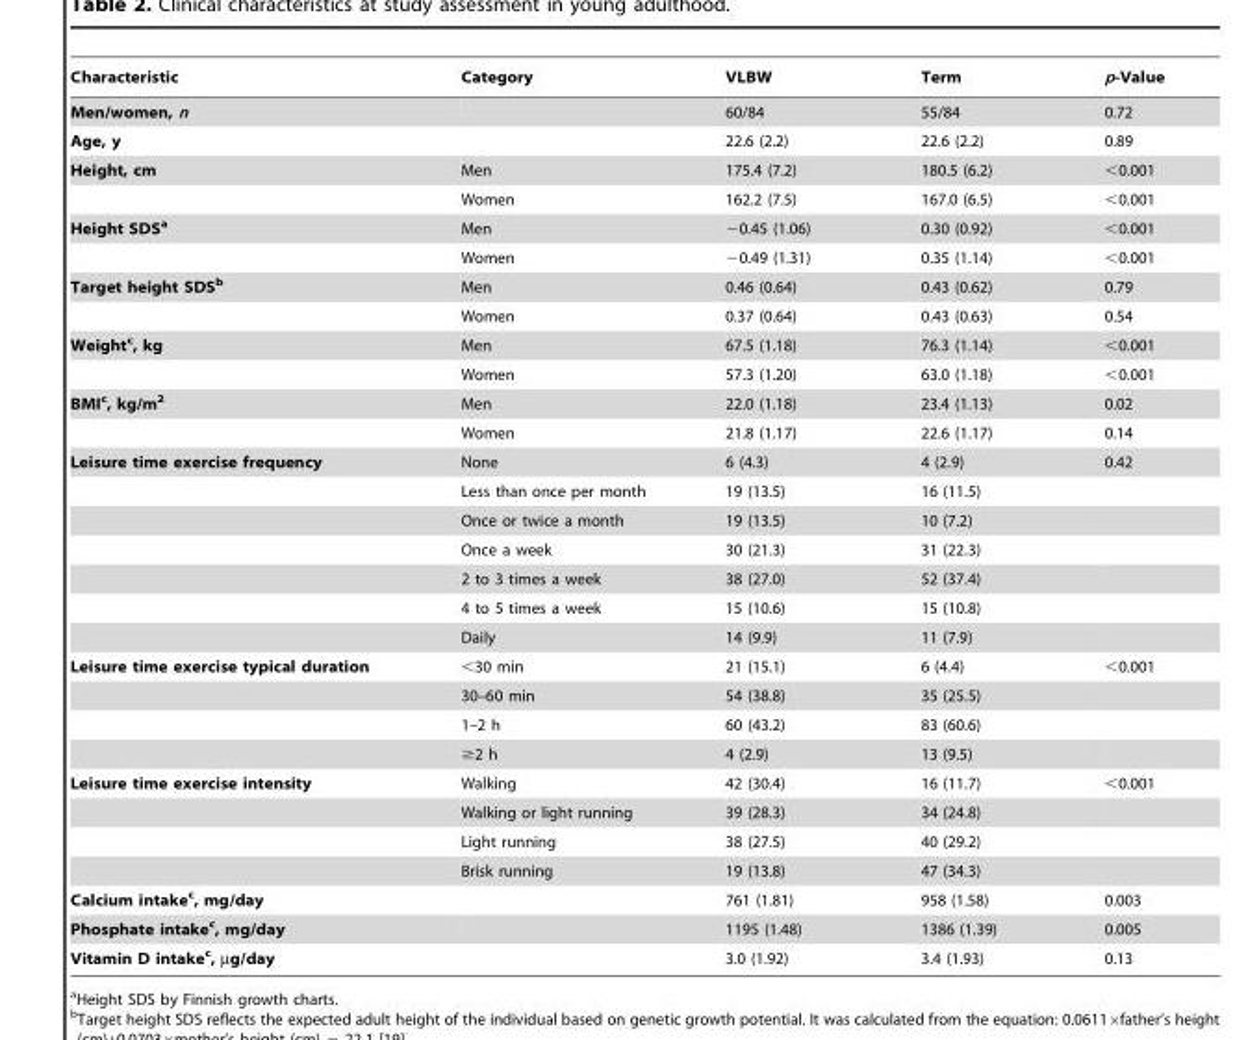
<table><thead><tr><td>Characteristic</td><td>Category</td><td>VLBW</td><td>Term</td><td>p-Value</td></tr></thead><tbody><tr><td>Men/women, n</td><td></td><td>60/84</td><td>55/84</td><td>0.72</td></tr><tr><td>Age, y</td><td></td><td>22.6 (2.2)</td><td>22.6 (2.2)</td><td>0.89</td></tr><tr><td rowspan="2">Height, cm</td><td>Men</td><td>175.4 (7.2)</td><td>180.5 (6.2)</td><td>&lt;0.001</td></tr><tr><td>Women</td><td>162.2 (7.5)</td><td>167.0 (6.5)</td><td>&lt;0.001</td></tr><tr><td rowspan="2">Height SDSa</td><td>Men</td><td>−0.45 (1.06)</td><td>0.30 (0.92)</td><td>&lt;0.001</td></tr><tr><td>Women</td><td>−0.49 (1.31)</td><td>0.35 (1.14)</td><td>&lt;0.001</td></tr><tr><td rowspan="2">Target height SDSb</td><td>Men</td><td>0.46 (0.64)</td><td>0.43 (0.62)</td><td>0.79</td></tr><tr><td>Women</td><td>0.37 (0.64)</td><td>0.43 (0.63)</td><td>0.54</td></tr><tr><td rowspan="2">Weightc, kg</td><td>Men</td><td>67.5 (1.18)</td><td>76.3 (1.14)</td><td>&lt;0.001</td></tr><tr><td>Women</td><td>57.3 (1.20)</td><td>63.0 (1.18)</td><td>&lt;0.001</td></tr><tr><td rowspan="2">BMIc, kg/m<sup>2</sup></td><td>Men</td><td>22.0 (1.18)</td><td>23.4 (1.13)</td><td>0.02</td></tr><tr><td>Women</td><td>21.8 (1.17)</td><td>22.6 (1.17)</td><td>0.14</td></tr><tr><td rowspan="7">Leisure time exercise frequency</td><td>None</td><td>6 (4.3)</td><td>4 (2.9)</td><td>0.42</td></tr><tr><td>Less than once per month</td><td>19 (13.5)</td><td>16 (11.5)</td><td></td></tr><tr><td>Once or twice a month</td><td>19 (13.5)</td><td>10 (7.2)</td><td></td></tr><tr><td>Once a week</td><td>30 (21.3)</td><td>31 (22.3)</td><td></td></tr><tr><td>2 to 3 times a week</td><td>38 (27.0)</td><td>52 (37.4)</td><td></td></tr><tr><td>4 to 5 times a week</td><td>15 (10.6)</td><td>15 (10.8)</td><td></td></tr><tr><td>Daily</td><td>14 (9.9)</td><td>11 (7.9)</td><td></td></tr><tr><td rowspan="4">Leisure time exercise typical duration</td><td>&lt;30 min</td><td>21 (15.1)</td><td>6 (4.4)</td><td>&lt;0.001</td></tr><tr><td>30–60 min</td><td>54 (38.8)</td><td>35 (25.5)</td><td></td></tr><tr><td>1–2 h</td><td>60 (43.2)</td><td>83 (60.6)</td><td></td></tr><tr><td>≥2 h</td><td>4 (2.9)</td><td>13 (9.5)</td><td></td></tr><tr><td rowspan="4">Leisure time exercise intensity</td><td>Walking</td><td>42 (30.4)</td><td>16 (11.7)</td><td>&lt;0.001</td></tr><tr><td>Walking or light running</td><td>39 (28.3)</td><td>34 (24.8)</td><td></td></tr><tr><td>Light running</td><td>38 (27.5)</td><td>40 (29.2)</td><td></td></tr><tr><td>Brisk running</td><td>19 (13.8)</td><td>47 (34.3)</td><td></td></tr><tr><td>Calcium intakec, mg/day</td><td></td><td>761 (1.81)</td><td>958 (1.58)</td><td>0.003</td></tr><tr><td>Phosphate intakec, mg/day</td><td></td><td>1195 (1.48)</td><td>1386 (1.39)</td><td>0.005</td></tr><tr><td>Vitamin D intakec, µg/day</td><td></td><td>3.0 (1.92)</td><td>3.4 (1.93)</td><td>0.13</td></tr></tbody></table>